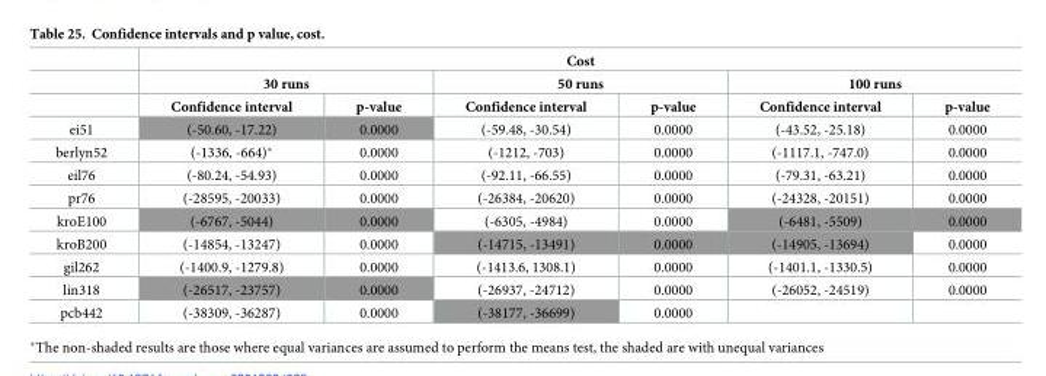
<table><thead><tr><td rowspan="3"></td><td colspan="6">Cost</td></tr><tr><td colspan="2">30 runs</td><td colspan="2">50 runs</td><td colspan="2">100 runs</td></tr><tr><td>Confidence interval</td><td>p-value</td><td>Confidence interval</td><td>p-value</td><td>Confidence interval</td><td>p-value</td></tr></thead><tbody><tr><td>ei51</td><td>(-50.60, -17.22)</td><td>0.0000</td><td>(-59.48, -30.54)</td><td>0.0000</td><td>(-43.52, -25.18)</td><td>0.0000</td></tr><tr><td>berlyn52</td><td>(-1336, -664)*</td><td>0.0000</td><td>(-1212, -703)</td><td>0.0000</td><td>(-1117.1, -747.0)</td><td>0.0000</td></tr><tr><td>eil76</td><td>(-80.24, -54.93)</td><td>0.0000</td><td>(-92.11, -66.55)</td><td>0.0000</td><td>(-79.31, -63.21)</td><td>0.0000</td></tr><tr><td>pr76</td><td>(-28595, -20033)</td><td>0.0000</td><td>(-26384, -20620)</td><td>0.0000</td><td>(-24328, -20151)</td><td>0.0000</td></tr><tr><td>kroE100</td><td>(-6767, -5044)</td><td>0.0000</td><td>(-6305, -4984)</td><td>0.0000</td><td>(-6481, -5509)</td><td>0.0000</td></tr><tr><td>kroB200</td><td>(-14854, -13247)</td><td>0.0000</td><td>(-14715, -13491)</td><td>0.0000</td><td>(-14905, -13694)</td><td>0.0000</td></tr><tr><td>gil262</td><td>(-1400.9, -1279.8)</td><td>0.0000</td><td>(-1413.6, 1308.1)</td><td>0.0000</td><td>(-1401.1, -1330.5)</td><td>0.0000</td></tr><tr><td>lin318</td><td>(-26517, -23757)</td><td>0.0000</td><td>(-26937, -24712)</td><td>0.0000</td><td>(-26052, -24519)</td><td>0.0000</td></tr><tr><td>pcb442</td><td>(-38309, -36287)</td><td>0.0000</td><td>(-38177, -36699)</td><td>0.0000</td><td></td><td></td></tr></tbody></table>